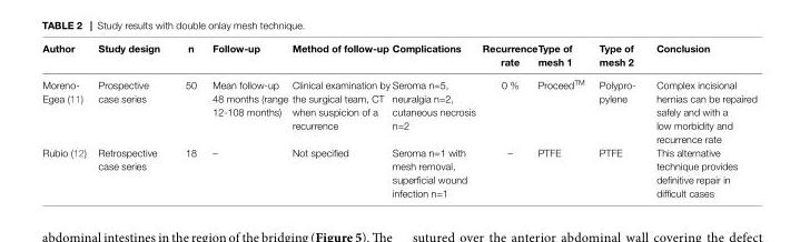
<table><thead><tr><td>Author</td><td>Study design</td><td>n</td><td>Follow-up</td><td>Method of follow-up</td><td>complications</td><td>Recurrence rate</td><td>Type of mesh 1</td><td>Type of mesh 2</td><td>conclusion</td></tr></thead><tbody><tr><td>Moreno- Egea (11)</td><td>Prospective case series</td><td>50</td><td>Mean follow-up 48 months (range 12-108 months)</td><td>Clinical examination by the surgical team, CT when suspicion of a recurrence</td><td>Seroma n=5, neuralgia n=2, cutaneous necrosis n=2</td><td>0 %</td><td>Proceed<sup>TM</sup></td><td>Polypro- pylene</td><td>Complex incisional hernias can be repaired safely and with a low morbidity and recurrence rate</td></tr><tr><td>Rubio (12)</td><td>Retrospective case series</td><td>18</td><td>–</td><td>Not specified</td><td>Seroma n=1 with mesh removal, superficial wound infection n=1</td><td>–</td><td>PTFE</td><td>PTFE</td><td>This alternative technique provides definitive repair in difficult cases</td></tr></tbody></table>